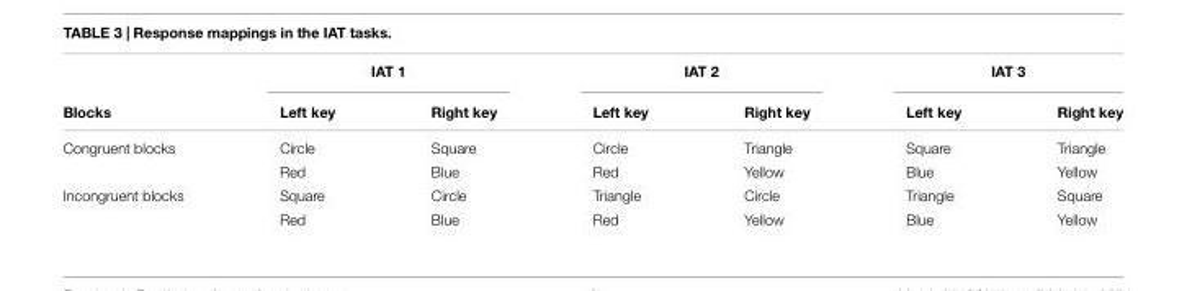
<table><thead><tr><td rowspan="2">Blocks</td><td colspan="2">IAT 1</td><td colspan="2">IAT 2</td><td colspan="2">IAT 3</td></tr><tr><td>Left key</td><td>Right key</td><td>Left key</td><td>Right key</td><td>Left key</td><td>Right key</td></tr></thead><tbody><tr><td rowspan="2">Congruent blocks</td><td>Circle</td><td>Square</td><td>Circle</td><td>Triangle</td><td>Square</td><td>Triangle</td></tr><tr><td>Red</td><td>Blue</td><td>Red</td><td>Yellow</td><td>Blue</td><td>Yellow</td></tr><tr><td rowspan="2">Incongruent blocks</td><td>Square</td><td>Circle</td><td>Triangle</td><td>Circle</td><td>Triangle</td><td>Square</td></tr><tr><td>Red</td><td>Blue</td><td>Red</td><td>Yellow</td><td>Blue</td><td>Yellow</td></tr></tbody></table>